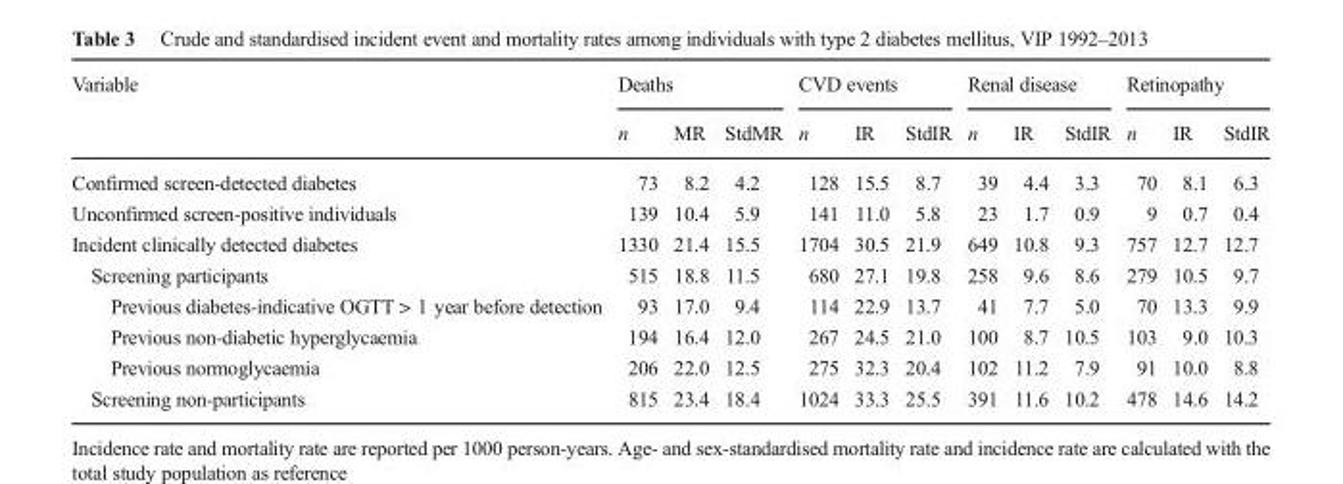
<table><thead><tr><td rowspan="2">Variable</td><td colspan="3">Deaths</td><td colspan="3">CVD events</td><td colspan="3">Renal disease</td><td colspan="3">Retinopathy</td></tr><tr><td>n</td><td>MR</td><td>StdMR</td><td>n</td><td>IR</td><td>StdIR</td><td>n</td><td>IR</td><td>StdIR</td><td>n</td><td>IR</td><td>StdIR</td></tr></thead><tbody><tr><td>Confirmed screen-detected diabetes</td><td>73</td><td>8.2</td><td>4.2</td><td>128</td><td>15.5</td><td>8.7</td><td>39</td><td>4.4</td><td>3.3</td><td>70</td><td>8.1</td><td>6.3</td></tr><tr><td>Unconfirmed screen-positive individuals</td><td>139</td><td>10.4</td><td>5.9</td><td>141</td><td>11.0</td><td>5.8</td><td>23</td><td>1.7</td><td>0.9</td><td>9</td><td>0.7</td><td>0.4</td></tr><tr><td>Incident clinically detected diabetes</td><td>1330</td><td>21.4</td><td>15.5</td><td>1704</td><td>30.5</td><td>21.9</td><td>649</td><td>10.8</td><td>9.3</td><td>757</td><td>12.7</td><td>12.7</td></tr><tr><td>Screening participants</td><td>515</td><td>18.8</td><td>11.5</td><td>680</td><td>27.1</td><td>19.8</td><td>258</td><td>9.6</td><td>8.6</td><td>279</td><td>10.5</td><td>9.7</td></tr><tr><td>Previous diabetes-indicative OGTT &gt; 1 year before detection</td><td>93</td><td>17.0</td><td>9.4</td><td>114</td><td>22.9</td><td>13.7</td><td>41</td><td>7.7</td><td>5.0</td><td>70</td><td>13.3</td><td>9.9</td></tr><tr><td>Previous non-diabetic hyperglycaemia</td><td>194</td><td>16.4</td><td>12.0</td><td>267</td><td>24.5</td><td>21.0</td><td>100</td><td>8.7</td><td>10.5</td><td>103</td><td>9.0</td><td>10.3</td></tr><tr><td>Previous normoglycaemia</td><td>206</td><td>22.0</td><td>12.5</td><td>275</td><td>32.3</td><td>20.4</td><td>102</td><td>11.2</td><td>7.9</td><td>91</td><td>10.0</td><td>8.8</td></tr><tr><td>Screening non-participants</td><td>815</td><td>23.4</td><td>18.4</td><td>1024</td><td>33.3</td><td>25.5</td><td>391</td><td>11.6</td><td>10.2</td><td>478</td><td>14.6</td><td>14.2</td></tr></tbody></table>